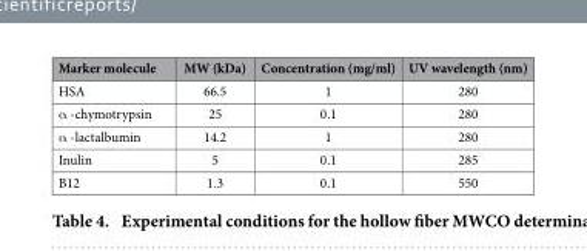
<table><thead><tr><td>Marker molecule</td><td>MW (kDa)</td><td>Concentration (mg/ml)</td><td>UV wavelength (nm)</td></tr></thead><tbody><tr><td>HSA</td><td>66.5</td><td>1</td><td>280</td></tr><tr><td>α -chymotrypsin</td><td>25</td><td>0.1</td><td>280</td></tr><tr><td>α -lactalbumin</td><td>14.2</td><td>1</td><td>280</td></tr><tr><td>Inulin</td><td>5</td><td>0.1</td><td>285</td></tr><tr><td>B12</td><td>1.3</td><td>0.1</td><td>550</td></tr></tbody></table>